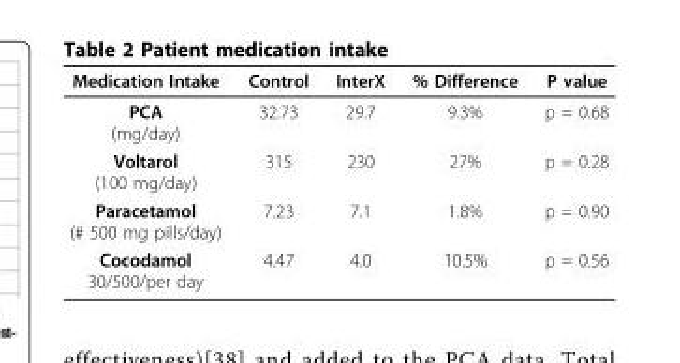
<table><thead><tr><td>Medication Intake</td><td>Control</td><td>InterX</td><td>% Difference</td><td>P value</td></tr></thead><tbody><tr><td>PCA (mg/day)</td><td>32.73</td><td>29.7</td><td>9.3%</td><td>p = 0.68</td></tr><tr><td>Voltarol (100 mg/day)</td><td>315</td><td>230</td><td>27%</td><td>p = 0.28</td></tr><tr><td>Paracetamol (# 500 mg pills/day)</td><td>7.23</td><td>7.1</td><td>1.8%</td><td>p = 0.90</td></tr><tr><td>Cocodamol 30/500/per day</td><td>4.47</td><td>4.0</td><td>10.5%</td><td>p = 0.56</td></tr></tbody></table>